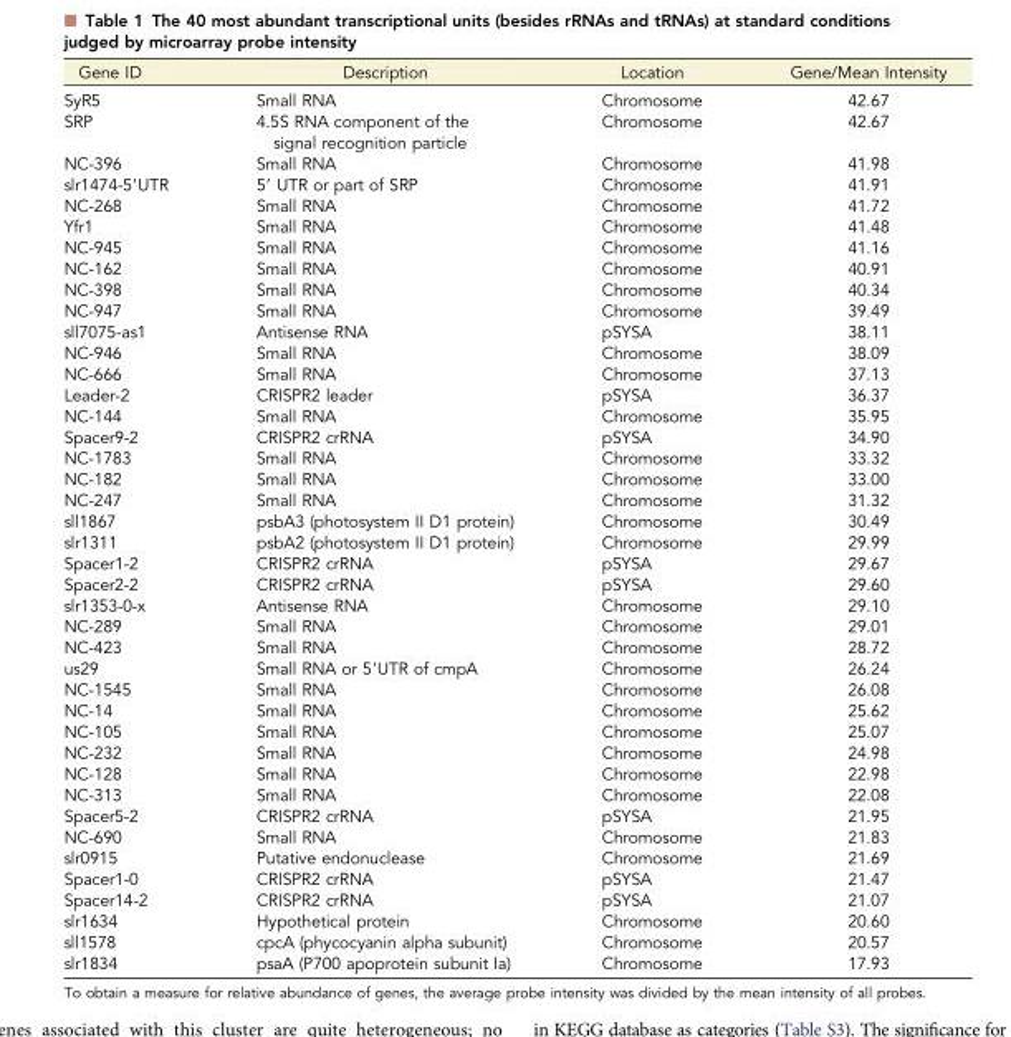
<table><thead><tr><td>Gene ID</td><td>Description</td><td>Location</td><td>Gene/Mean Intensity</td></tr></thead><tbody><tr><td>SyR5</td><td>Small RNA</td><td>Chromosome</td><td>42.67</td></tr><tr><td>SRP</td><td>4.5S RNA component of the signal recognition particle</td><td>Chromosome</td><td>42.67</td></tr><tr><td>NC-396</td><td>Small RNA</td><td>Chromosome</td><td>41.98</td></tr><tr><td>slr1474-5′UTR</td><td>5′ UTR or part of SRP</td><td>Chromosome</td><td>41.91</td></tr><tr><td>NC-268</td><td>Small RNA</td><td>Chromosome</td><td>41.72</td></tr><tr><td>Yfr1</td><td>Small RNA</td><td>Chromosome</td><td>41.48</td></tr><tr><td>NC-945</td><td>Small RNA</td><td>Chromosome</td><td>41.16</td></tr><tr><td>NC-162</td><td>Small RNA</td><td>Chromosome</td><td>40.91</td></tr><tr><td>NC-398</td><td>Small RNA</td><td>Chromosome</td><td>40.34</td></tr><tr><td>NC-947</td><td>Small RNA</td><td>Chromosome</td><td>39.49</td></tr><tr><td>sll7075-as1</td><td>Antisense RNA</td><td>pSYSA</td><td>38.11</td></tr><tr><td>NC-946</td><td>Small RNA</td><td>Chromosome</td><td>38.09</td></tr><tr><td>NC-666</td><td>Small RNA</td><td>Chromosome</td><td>37.13</td></tr><tr><td>Leader-2</td><td>CRISPR2 leader</td><td>pSYSA</td><td>36.37</td></tr><tr><td>NC-144</td><td>Small RNA</td><td>Chromosome</td><td>35.95</td></tr><tr><td>Spacer9-2</td><td>CRISPR2 crRNA</td><td>pSYSA</td><td>34.90</td></tr><tr><td>NC-1783</td><td>Small RNA</td><td>Chromosome</td><td>33.32</td></tr><tr><td>NC-182</td><td>Small RNA</td><td>Chromosome</td><td>33.00</td></tr><tr><td>NC-247</td><td>Small RNA</td><td>Chromosome</td><td>31.32</td></tr><tr><td>sll1867</td><td>psbA3 (photosystem II D1 protein)</td><td>Chromosome</td><td>30.49</td></tr><tr><td>slr1311</td><td>psbA2 (photosystem II D1 protein)</td><td>Chromosome</td><td>29.99</td></tr><tr><td>Spacer1-2</td><td>CRISPR2 crRNA</td><td>pSYSA</td><td>29.67</td></tr><tr><td>Spacer2-2</td><td>CRISPR2 crRNA</td><td>pSYSA</td><td>29.60</td></tr><tr><td>slr1353-0-x</td><td>Antisense RNA</td><td>Chromosome</td><td>29.10</td></tr><tr><td>NC-289</td><td>Small RNA</td><td>Chromosome</td><td>29.01</td></tr><tr><td>NC-423</td><td>Small RNA</td><td>Chromosome</td><td>28.72</td></tr><tr><td>us29</td><td>Small RNA or 5′UTR of cmpA</td><td>Chromosome</td><td>26.24</td></tr><tr><td>NC-1545</td><td>Small RNA</td><td>Chromosome</td><td>26.08</td></tr><tr><td>NC-14</td><td>Small RNA</td><td>Chromosome</td><td>25.62</td></tr><tr><td>NC-105</td><td>Small RNA</td><td>Chromosome</td><td>25.07</td></tr><tr><td>NC-232</td><td>Small RNA</td><td>Chromosome</td><td>24.98</td></tr><tr><td>NC-128</td><td>Small RNA</td><td>Chromosome</td><td>22.98</td></tr><tr><td>NC-313</td><td>Small RNA</td><td>Chromosome</td><td>22.08</td></tr><tr><td>Spacer5-2</td><td>CRISPR2 crRNA</td><td>pSYSA</td><td>21.95</td></tr><tr><td>NC-690</td><td>Small RNA</td><td>Chromosome</td><td>21.83</td></tr><tr><td>slr0915</td><td>Putative endonuclease</td><td>Chromosome</td><td>21.69</td></tr><tr><td>Spacer1-0</td><td>CRISPR2 crRNA</td><td>pSYSA</td><td>21.47</td></tr><tr><td>Spacer14-2</td><td>CRISPR2 crRNA</td><td>pSYSA</td><td>21.07</td></tr><tr><td>slr1634</td><td>Hypothetical protein</td><td>Chromosome</td><td>20.60</td></tr><tr><td>sll1578</td><td>cpcA (phycocyanin alpha subunit)</td><td>Chromosome</td><td>20.57</td></tr><tr><td>slr1834</td><td>psaA (P700 apoprotein subunit Ia)</td><td>Chromosome</td><td>17.93</td></tr></tbody></table>